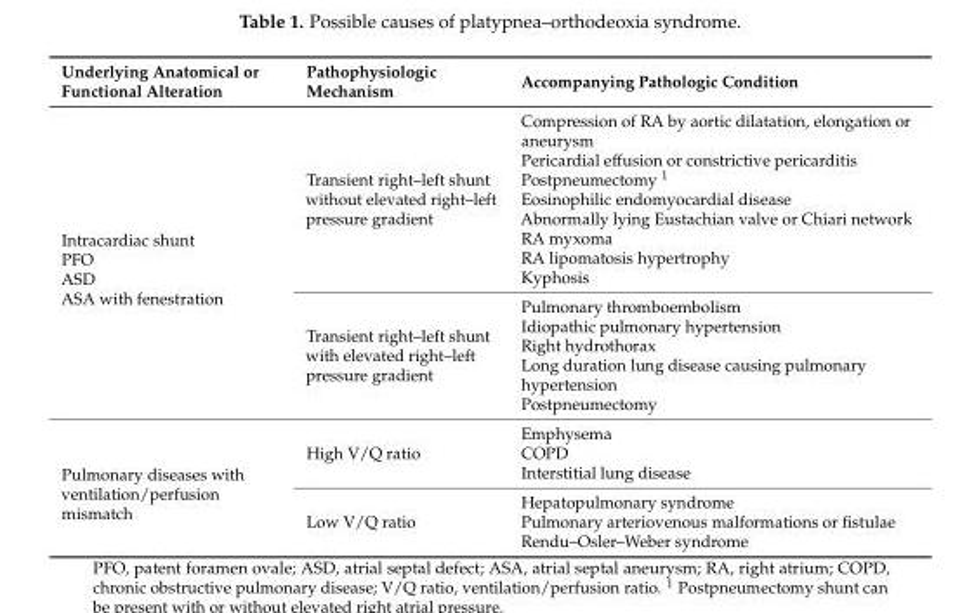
<table><thead><tr><td>Underlying Anatomical or Functional Alteration</td><td>Pathophysiologic Mechanism</td><td>Accompanying Pathologic Condition</td></tr></thead><tbody><tr><td rowspan="2">Intracardiac shunt PFO ASD ASA with fenestration</td><td>Transient right–left shunt without elevated right–left pressure gradient</td><td>Compression of RA by aortic dilatation, elongation or aneurysm Pericardial effusion or constrictive pericarditis Postpneumectomy 1 Eosinophilic endomyocardial disease Abnormally lying Eustachian valve or Chiari network RA myxoma RA lipomatosis hypertrophy Kyphosis</td></tr><tr><td>Transient right–left shunt with elevated right–left pressure gradient</td><td>Pulmonary thromboembolism Idiopathic pulmonary hypertension Right hydrothorax Long duration lung disease causing pulmonary hypertension Postpneumectomy</td></tr><tr><td rowspan="2">Pulmonary diseases with ventilation/perfusion mismatch</td><td>High V/Q ratio</td><td>Emphysema COPD Interstitial lung disease</td></tr><tr><td>Low V/Q ratio</td><td>Hepatopulmonary syndrome Pulmonary arteriovenous malformations or fistulae Rendu–Osler–Weber syndrome</td></tr></tbody></table>